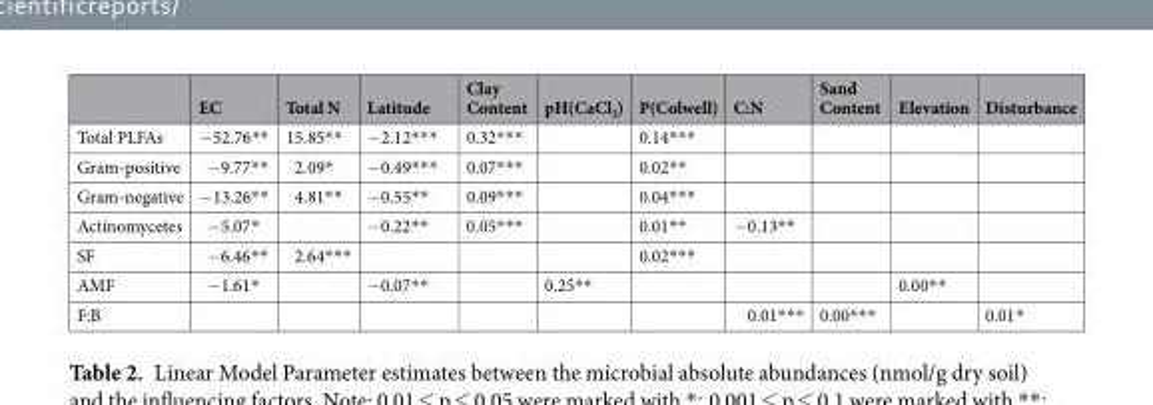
<table><thead><tr><td></td><td>EC</td><td>Total N</td><td>Latitude</td><td>Clay Content</td><td>pH(CaCl<sub>2</sub>)</td><td>P(Colwell)</td><td>C:N</td><td>Sand Content</td><td>Elevation</td><td>Disturbance</td></tr></thead><tbody><tr><td>Total PLFAs</td><td>−52.76**</td><td>15.85**</td><td>−2.12***</td><td>0.32***</td><td></td><td>0.14***</td><td></td><td></td><td></td><td></td></tr><tr><td>Gram-positive</td><td>−9.77**</td><td>2.09*</td><td>−0.49***</td><td>0.07***</td><td></td><td>0.02**</td><td></td><td></td><td></td><td></td></tr><tr><td>Gram-negative</td><td>−13.26**</td><td>4.81**</td><td>−0.55**</td><td>0.09***</td><td></td><td>0.04***</td><td></td><td></td><td></td><td></td></tr><tr><td>Actinomycetes</td><td>−5.07*</td><td></td><td>−0.22**</td><td>0.05***</td><td></td><td>0.01**</td><td>−0.13**</td><td></td><td></td><td></td></tr><tr><td>SF</td><td>−6.46**</td><td>2.64***</td><td></td><td></td><td></td><td>0.02***</td><td></td><td></td><td></td><td></td></tr><tr><td>AMF</td><td>−1.61*</td><td></td><td>−0.07**</td><td></td><td>0.25**</td><td></td><td></td><td></td><td>0.00**</td><td></td></tr><tr><td>F:B</td><td></td><td></td><td></td><td></td><td></td><td></td><td>0.01***</td><td>0.00***</td><td></td><td>0.01*</td></tr></tbody></table>